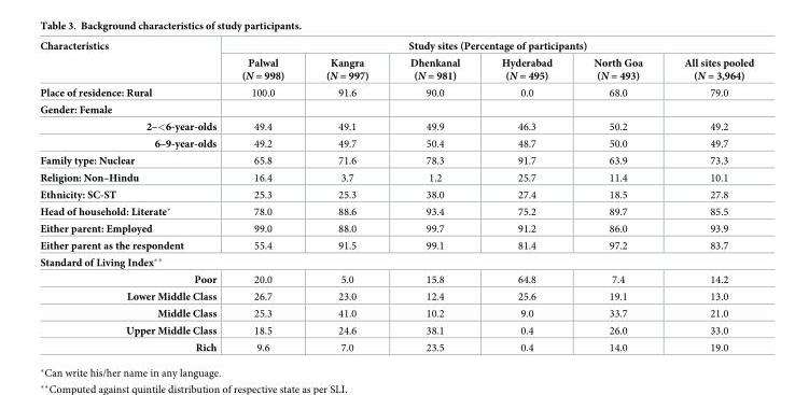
<table><thead><tr><td rowspan="2">Characteristics</td><td colspan="6">Study sites (Percentage of participants)</td></tr><tr><td>Palwal (N = 998)</td><td>Kangra (N = 997)</td><td>Dhenkanal (N = 981)</td><td>Hyderabad (N = 495)</td><td>North Goa (N = 493)</td><td>All sites pooled (N = 3,964)</td></tr></thead><tbody><tr><td>Place of residence: Rural</td><td>100.0</td><td>91.6</td><td>90.0</td><td>0.0</td><td>68.0</td><td>79.0</td></tr><tr><td colspan="7">Gender: Female</td></tr><tr><td>2–&lt;6-year-olds</td><td>49.4</td><td>49.1</td><td>49.9</td><td>46.3</td><td>50.2</td><td>49.2</td></tr><tr><td>6–9-year-olds</td><td>49.2</td><td>49.7</td><td>50.4</td><td>48.7</td><td>50.0</td><td>49.7</td></tr><tr><td>Family type: Nuclear</td><td>65.8</td><td>71.6</td><td>78.3</td><td>91.7</td><td>63.9</td><td>73.3</td></tr><tr><td>Religion: Non–Hindu</td><td>16.4</td><td>3.7</td><td>1.2</td><td>25.7</td><td>11.4</td><td>10.1</td></tr><tr><td>Ethnicity: SC-ST</td><td>25.3</td><td>25.3</td><td>38.0</td><td>27.4</td><td>18.5</td><td>27.8</td></tr><tr><td>Head of household: Literate*</td><td>78.0</td><td>88.6</td><td>93.4</td><td>75.2</td><td>89.7</td><td>85.5</td></tr><tr><td>Either parent: Employed</td><td>99.0</td><td>88.0</td><td>99.7</td><td>91.2</td><td>86.0</td><td>93.9</td></tr><tr><td>Either parent as the respondent</td><td>55.4</td><td>91.5</td><td>99.1</td><td>81.4</td><td>97.2</td><td>83.7</td></tr><tr><td colspan="7">Standard of Living Index**</td></tr><tr><td>Poor</td><td>20.0</td><td>5.0</td><td>15.8</td><td>64.8</td><td>7.4</td><td>14.2</td></tr><tr><td>Lower Middle Class</td><td>26.7</td><td>23.0</td><td>12.4</td><td>25.6</td><td>19.1</td><td>13.0</td></tr><tr><td>Middle Class</td><td>25.3</td><td>41.0</td><td>10.2</td><td>9.0</td><td>33.7</td><td>21.0</td></tr><tr><td>Upper Middle Class</td><td>18.5</td><td>24.6</td><td>38.1</td><td>0.4</td><td>26.0</td><td>33.0</td></tr><tr><td>Rich</td><td>9.6</td><td>7.0</td><td>23.5</td><td>0.4</td><td>14.0</td><td>19.0</td></tr></tbody></table>